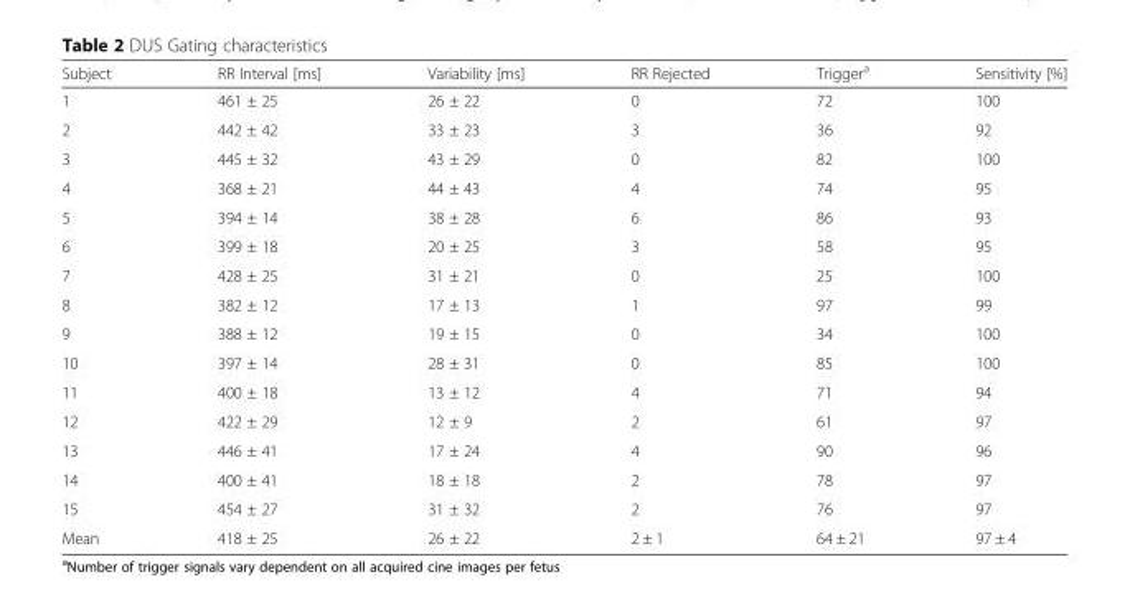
<table><thead><tr><td>Subject</td><td>RR Interval [ms]</td><td>Variability [ms]</td><td>RR Rejected</td><td>Trigger<sup>a</sup></td><td>Sensitivity [%]</td></tr></thead><tbody><tr><td>1</td><td>461 ± 25</td><td>26 ± 22</td><td>0</td><td>72</td><td>100</td></tr><tr><td>2</td><td>442 ± 42</td><td>33 ± 23</td><td>3</td><td>36</td><td>92</td></tr><tr><td>3</td><td>445 ± 32</td><td>43 ± 29</td><td>0</td><td>82</td><td>100</td></tr><tr><td>4</td><td>368 ± 21</td><td>44 ± 43</td><td>4</td><td>74</td><td>95</td></tr><tr><td>5</td><td>394 ± 14</td><td>38 ± 28</td><td>6</td><td>86</td><td>93</td></tr><tr><td>6</td><td>399 ± 18</td><td>20 ± 25</td><td>3</td><td>58</td><td>95</td></tr><tr><td>7</td><td>428 ± 25</td><td>31 ± 21</td><td>0</td><td>25</td><td>100</td></tr><tr><td>8</td><td>382 ± 12</td><td>17 ± 13</td><td>1</td><td>97</td><td>99</td></tr><tr><td>9</td><td>388 ± 12</td><td>19 ± 15</td><td>0</td><td>34</td><td>100</td></tr><tr><td>10</td><td>397 ± 14</td><td>28 ± 31</td><td>0</td><td>85</td><td>100</td></tr><tr><td>11</td><td>400 ± 18</td><td>13 ± 12</td><td>4</td><td>71</td><td>94</td></tr><tr><td>12</td><td>422 ± 29</td><td>12 ± 9</td><td>2</td><td>61</td><td>97</td></tr><tr><td>13</td><td>446 ± 41</td><td>17 ± 24</td><td>4</td><td>90</td><td>96</td></tr><tr><td>14</td><td>400 ± 41</td><td>18 ± 18</td><td>2</td><td>78</td><td>97</td></tr><tr><td>15</td><td>454 ± 27</td><td>31 ± 32</td><td>2</td><td>76</td><td>97</td></tr><tr><td>Mean</td><td>418 ± 25</td><td>26 ± 22</td><td>2 ± 1</td><td>64 ± 21</td><td>97 ± 4</td></tr></tbody></table>